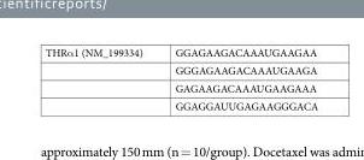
<table><tbody><tr><td rowspan="4">THRα1 (NM_199334)</td><td>GGAGAAGACAAAUGAAGAA</td></tr><tr><td>GGGAGAAGACAAAUGAAGA</td></tr><tr><td>GAGAAGACAAAUGAAGAAA</td></tr><tr><td>GGAGGAUUGAGAAGGGACA</td></tr></tbody></table>